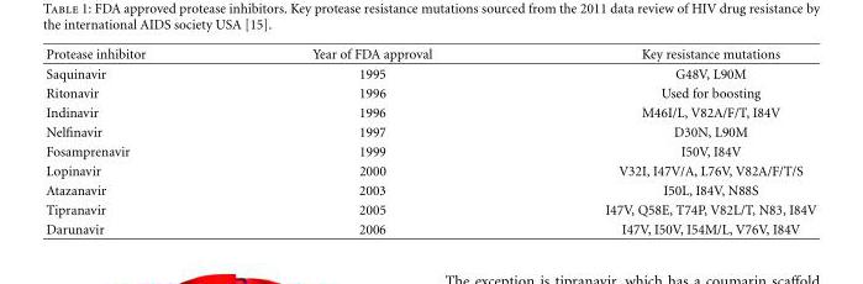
<table><thead><tr><td>Protease inhibitor</td><td>Year of FDA approval</td><td>Key resistance mutations</td></tr></thead><tbody><tr><td>Saquinavir</td><td>1995</td><td>G48V, L90M</td></tr><tr><td>Ritonavir</td><td>1996</td><td>Used for boosting</td></tr><tr><td>Indinavir</td><td>1996</td><td>M46I/L, V82A/F/T, I84V</td></tr><tr><td>Nelfinavir</td><td>1997</td><td>D30N, L90M</td></tr><tr><td>Fosamprenavir</td><td>1999</td><td>I50V, I84V</td></tr><tr><td>Lopinavir</td><td>2000</td><td>V32I, I47V/A, L76V, V82A/F/T/S</td></tr><tr><td>Atazanavir</td><td>2003</td><td>I50L, I84V, N88S</td></tr><tr><td>Tipranavir</td><td>2005</td><td>I47V, Q58E, T74P, V82L/T, N83, I84V</td></tr><tr><td>Darunavir</td><td>2006</td><td>I47V, I50V, I54M/L, V76V, I84V</td></tr></tbody></table>